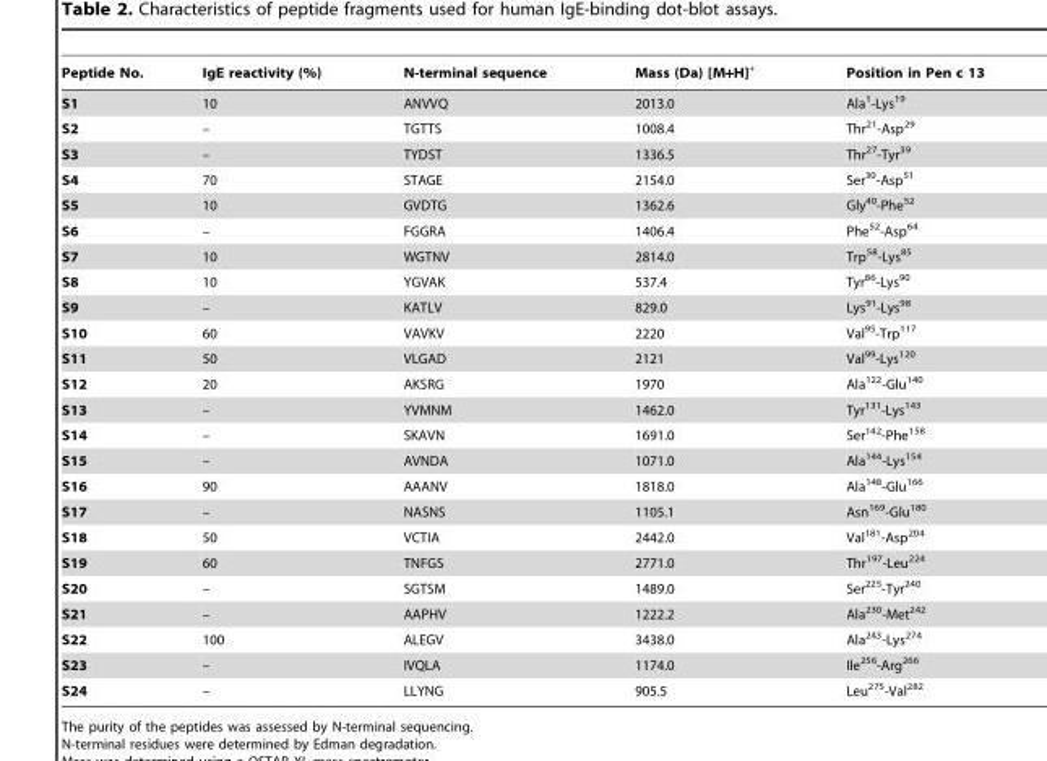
<table><thead><tr><td>Peptide No.</td><td>IgE reactivity (%)</td><td>N-terminal sequence</td><td>Mass (Da) [M+H]<sup>+</sup></td><td>Position in Pen c 13</td></tr></thead><tbody><tr><td>S1</td><td>10</td><td>ANVVQ</td><td>2013.0</td><td>Ala<sup>1</sup>-Lys<sup>19</sup></td></tr><tr><td>S2</td><td>–</td><td>TGTTS</td><td>1008.4</td><td>Thr<sup>21</sup>-Asp<sup>29</sup></td></tr><tr><td>S3</td><td>–</td><td>TYDST</td><td>1336.5</td><td>Thr<sup>27</sup>-Tyr<sup>39</sup></td></tr><tr><td>S4</td><td>70</td><td>STAGE</td><td>2154.0</td><td>Ser<sup>30</sup>-Asp<sup>51</sup></td></tr><tr><td>S5</td><td>10</td><td>GVDTG</td><td>1362.6</td><td>Gly<sup>40</sup>-Phe<sup>52</sup></td></tr><tr><td>S6</td><td>–</td><td>FGGRA</td><td>1406.4</td><td>Phe<sup>52</sup>-Asp<sup>64</sup></td></tr><tr><td>S7</td><td>10</td><td>WGTNV</td><td>2814.0</td><td>Trp<sup>58</sup>-Lys<sup>85</sup></td></tr><tr><td>S8</td><td>10</td><td>YGVAK</td><td>537.4</td><td>Tyr<sup>86</sup>-Lys<sup>90</sup></td></tr><tr><td>S9</td><td>–</td><td>KATLV</td><td>829.0</td><td>Lys<sup>91</sup>-Lys<sup>98</sup></td></tr><tr><td>S10</td><td>60</td><td>VAVKV</td><td>2220</td><td>Val<sup>95</sup>-Trp<sup>117</sup></td></tr><tr><td>S11</td><td>50</td><td>VLGAD</td><td>2121</td><td>Val<sup>99</sup>-Lys<sup>120</sup></td></tr><tr><td>S12</td><td>20</td><td>AKSRG</td><td>1970</td><td>Ala<sup>122</sup>-Glu<sup>140</sup></td></tr><tr><td>S13</td><td>–</td><td>YVMNM</td><td>1462.0</td><td>Tyr<sup>131</sup>-Lys<sup>143</sup></td></tr><tr><td>S14</td><td>–</td><td>SKAVN</td><td>1691.0</td><td>Ser<sup>142</sup>-Phe<sup>158</sup></td></tr><tr><td>S15</td><td>–</td><td>AVNDA</td><td>1071.0</td><td>Ala<sup>144</sup>-Lys<sup>154</sup></td></tr><tr><td>S16</td><td>90</td><td>AAANV</td><td>1818.0</td><td>Ala<sup>148</sup>-Glu<sup>166</sup></td></tr><tr><td>S17</td><td>–</td><td>NASNS</td><td>1105.1</td><td>Asn<sup>169</sup>-Glu<sup>180</sup></td></tr><tr><td>S18</td><td>50</td><td>VCTIA</td><td>2442.0</td><td>Val<sup>181</sup>-Asp<sup>204</sup></td></tr><tr><td>S19</td><td>60</td><td>TNFGS</td><td>2771.0</td><td>Thr<sup>197</sup>-Leu<sup>224</sup></td></tr><tr><td>S20</td><td>–</td><td>SGTSM</td><td>1489.0</td><td>Ser<sup>225</sup>-Tyr<sup>240</sup></td></tr><tr><td>S21</td><td>–</td><td>AAPHV</td><td>1222.2</td><td>Ala<sup>230</sup>-Met<sup>242</sup></td></tr><tr><td>S22</td><td>100</td><td>ALEGV</td><td>3438.0</td><td>Ala<sup>243</sup>-Lys<sup>274</sup></td></tr><tr><td>S23</td><td>–</td><td>IVQLA</td><td>1174.0</td><td>Ile<sup>256</sup>-Arg<sup>266</sup></td></tr><tr><td>S24</td><td>–</td><td>LLYNG</td><td>905.5</td><td>Leu<sup>275</sup>-Val<sup>282</sup></td></tr></tbody></table>